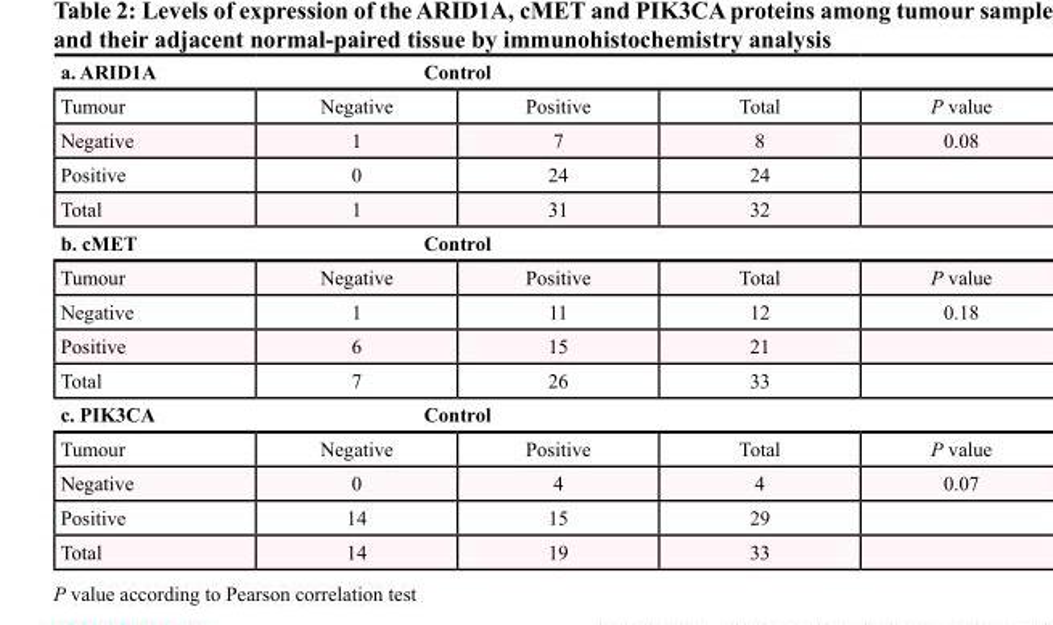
<table><tbody><tr><td>a. ARID1A</td><td colspan="2">Control</td><td colspan="2"></td></tr><tr><td>Tumour</td><td>Negative</td><td>Positive</td><td>Total</td><td>P value</td></tr><tr><td>Negative</td><td>1</td><td>7</td><td>8</td><td>0.08</td></tr><tr><td>Positive</td><td>0</td><td>24</td><td>24</td><td></td></tr><tr><td>Total</td><td>1</td><td>31</td><td>32</td><td></td></tr><tr><td>b. cMET</td><td colspan="2">Control</td><td colspan="2"></td></tr><tr><td>Tumour</td><td>Negative</td><td>Positive</td><td>Total</td><td>P value</td></tr><tr><td>Negative</td><td>1</td><td>11</td><td>12</td><td>0.18</td></tr><tr><td>Positive</td><td>6</td><td>15</td><td>21</td><td></td></tr><tr><td>Total</td><td>7</td><td>26</td><td>33</td><td></td></tr><tr><td>c. PIK3CA</td><td colspan="2">Control</td><td colspan="2"></td></tr><tr><td>Tumour</td><td>Negative</td><td>Positive</td><td>Total</td><td>P value</td></tr><tr><td>Negative</td><td>0</td><td>4</td><td>4</td><td>0.07</td></tr><tr><td>Positive</td><td>14</td><td>15</td><td>29</td><td></td></tr><tr><td>Total</td><td>14</td><td>19</td><td>33</td><td></td></tr></tbody></table>